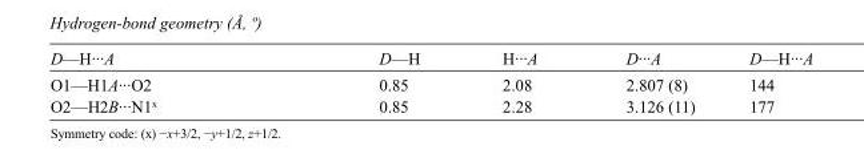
<table><tbody><tr><td>D—H···A</td><td>D—H</td><td>H···A</td><td>D···A</td><td>D—H···A</td></tr><tr><td>O1—H1A···O2</td><td>0.85</td><td>2.08</td><td>2.807 (8)</td><td>144</td></tr><tr><td>O2—H2B···N1<sup>x</sup></td><td>0.85</td><td>2.28</td><td>3.126 (11)</td><td>177</td></tr></tbody></table>